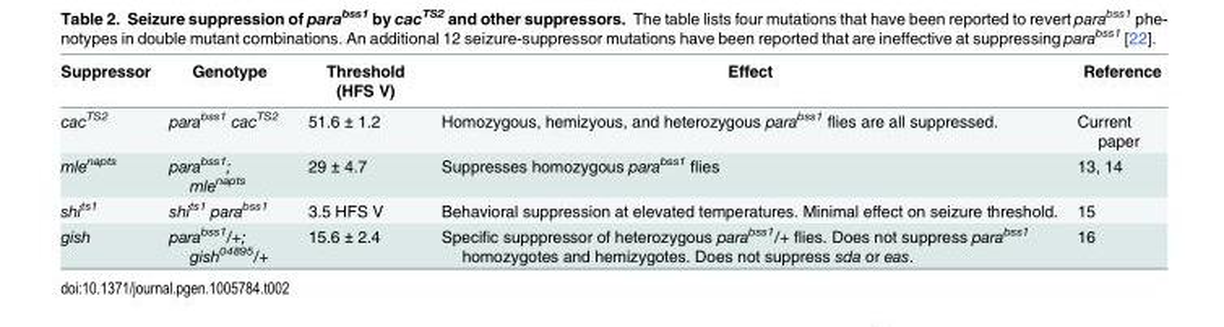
<table><thead><tr><td>Suppressor</td><td>Genotype</td><td>Threshold (HFS V)</td><td>Effect</td><td>Reference</td></tr></thead><tbody><tr><td>cac<sup>TS2</sup></td><td>para<sup>bss1</sup> cac<sup>TS2</sup></td><td>51.6 ± 1.2</td><td>Homozygous, hemizyous, and heterozygous para<sup>bss1</sup> flies are all suppressed.</td><td>Current paper</td></tr><tr><td>mle<sup>napts</sup></td><td>para<sup>bss1</sup>; mle<sup>napts</sup></td><td>29 ± 4.7</td><td>Suppresses homozygous para<sup>bss1</sup> flies</td><td>13, 14</td></tr><tr><td>shi<sup>ts1</sup></td><td>shi<sup>ts1</sup> para<sup>bss1</sup></td><td>3.5 HFS V</td><td>Behavioral suppression at elevated temperatures. Minimal effect on seizure threshold.</td><td>15</td></tr><tr><td>gish</td><td>para<sup>bss1</sup>/+; gish<sup>04895</sup>/+</td><td>15.6 ± 2.4</td><td>Specific supppressor of heterozygous para<sup>bss1</sup>/+ flies. Does not suppress para<sup>bss1</sup> homozygotes and hemizygotes. Does not suppress sda or eas.</td><td>16</td></tr></tbody></table>